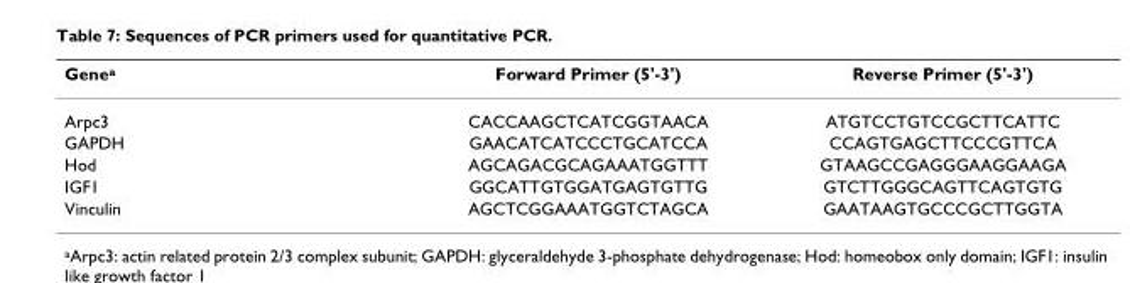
<table><thead><tr><td>Genea</td><td>Forward Primer (5&#x27;-3&#x27;)</td><td>Reverse Primer (5&#x27;-3&#x27;)</td></tr></thead><tbody><tr><td>Arpc3</td><td>CACCAAGCTCATCGGTAACA</td><td>ATGTCCTGTCCGCTTCATTC</td></tr><tr><td>GAPDH</td><td>GAACATCATCCCTGCATCCA</td><td>CCAGTGAGCTTCCCGTTCA</td></tr><tr><td>Hod</td><td>AGCAGACGCAGAAATGGTTT</td><td>GTAAGCCGAGGGAAGGAAGA</td></tr><tr><td>IGF1</td><td>GGCATTGTGGATGAGTGTTG</td><td>GTCTTGGGCAGTTCAGTGTG</td></tr><tr><td>Vinculin</td><td>AGCTCGGAAATGGTCTAGCA</td><td>GAATAAGTGCCCGCTTGGTA</td></tr></tbody></table>